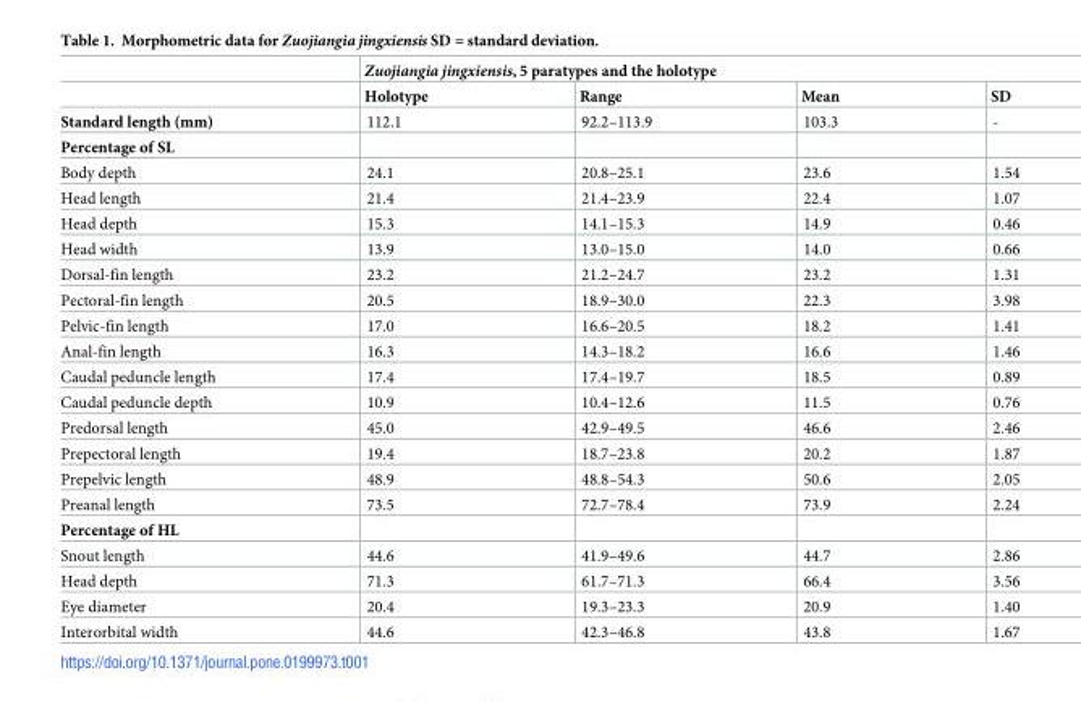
<table><thead><tr><td rowspan="2"></td><td colspan="4">Zuojiangia jingxiensis, 5 paratypes and the holotype</td></tr><tr><td>Holotype</td><td>Range</td><td>Mean</td><td>SD</td></tr></thead><tbody><tr><td>Standard length (mm)</td><td>112.1</td><td>92.2–113.9</td><td>103.3</td><td>-</td></tr><tr><td colspan="5">Percentage of SL</td></tr><tr><td>Body depth</td><td>24.1</td><td>20.8–25.1</td><td>23.6</td><td>1.54</td></tr><tr><td>Head length</td><td>21.4</td><td>21.4–23.9</td><td>22.4</td><td>1.07</td></tr><tr><td>Head depth</td><td>15.3</td><td>14.1–15.3</td><td>14.9</td><td>0.46</td></tr><tr><td>Head width</td><td>13.9</td><td>13.0–15.0</td><td>14.0</td><td>0.66</td></tr><tr><td>Dorsal-fin length</td><td>23.2</td><td>21.2–24.7</td><td>23.2</td><td>1.31</td></tr><tr><td>Pectoral-fin length</td><td>20.5</td><td>18.9–30.0</td><td>22.3</td><td>3.98</td></tr><tr><td>Pelvic-fin length</td><td>17.0</td><td>16.6–20.5</td><td>18.2</td><td>1.41</td></tr><tr><td>Anal-fin length</td><td>16.3</td><td>14.3–18.2</td><td>16.6</td><td>1.46</td></tr><tr><td>Caudal peduncle length</td><td>17.4</td><td>17.4–19.7</td><td>18.5</td><td>0.89</td></tr><tr><td>Caudal peduncle depth</td><td>10.9</td><td>10.4–12.6</td><td>11.5</td><td>0.76</td></tr><tr><td>Predorsal length</td><td>45.0</td><td>42.9–49.5</td><td>46.6</td><td>2.46</td></tr><tr><td>Prepectoral length</td><td>19.4</td><td>18.7–23.8</td><td>20.2</td><td>1.87</td></tr><tr><td>Prepelvic length</td><td>48.9</td><td>48.8–54.3</td><td>50.6</td><td>2.05</td></tr><tr><td>Preanal length</td><td>73.5</td><td>72.7–78.4</td><td>73.9</td><td>2.24</td></tr><tr><td colspan="5">Percentage of HL</td></tr><tr><td>Snout length</td><td>44.6</td><td>41.9–49.6</td><td>44.7</td><td>2.86</td></tr><tr><td>Head depth</td><td>71.3</td><td>61.7–71.3</td><td>66.4</td><td>3.56</td></tr><tr><td>Eye diameter</td><td>20.4</td><td>19.3–23.3</td><td>20.9</td><td>1.40</td></tr><tr><td>Interorbital width</td><td>44.6</td><td>42.3–46.8</td><td>43.8</td><td>1.67</td></tr></tbody></table>